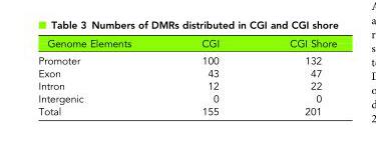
<table><thead><tr><td>Genome Elements</td><td>CGI</td><td>CGI Shore</td></tr></thead><tbody><tr><td>Promoter</td><td>100</td><td>132</td></tr><tr><td>Exon</td><td>43</td><td>47</td></tr><tr><td>Intron</td><td>12</td><td>22</td></tr><tr><td>Intergenic</td><td>0</td><td>0</td></tr><tr><td>Total</td><td>155</td><td>201</td></tr></tbody></table>